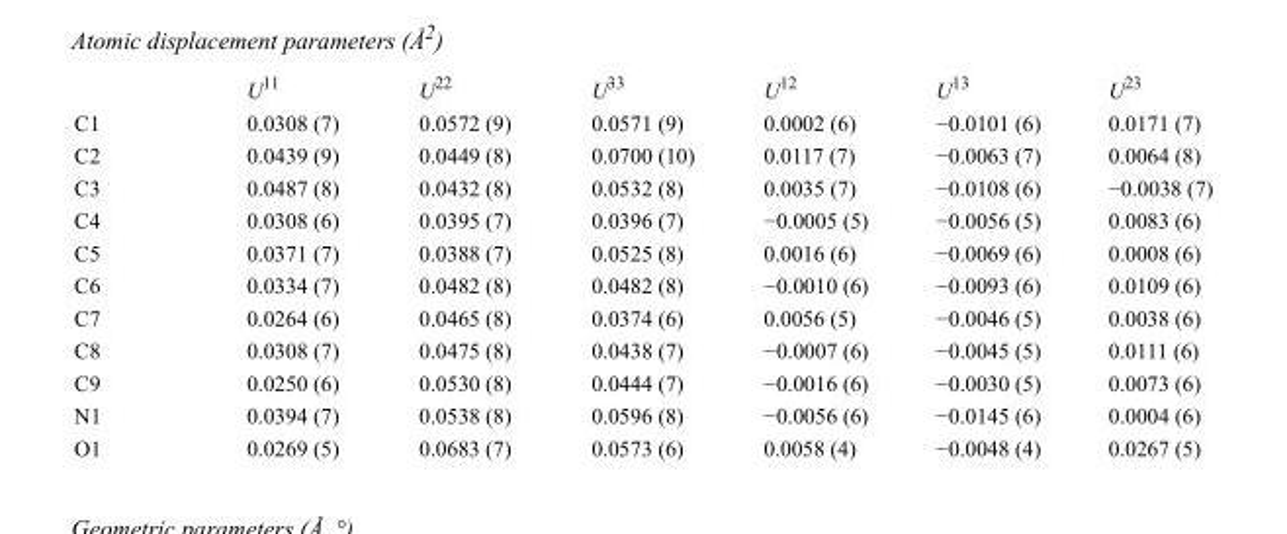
<table><thead><tr><td></td><td>U<sup>11</sup></td><td>U<sup>22</sup></td><td>U<sup>33</sup></td><td>U<sup>12</sup></td><td>U<sup>13</sup></td><td>U<sup>23</sup></td></tr></thead><tbody><tr><td>C1</td><td>0.0308 (7)</td><td>0.0572 (9)</td><td>0.0571 (9)</td><td>0.0002 (6)</td><td>−0.0101 (6)</td><td>0.0171 (7)</td></tr><tr><td>C2</td><td>0.0439 (9)</td><td>0.0449 (8)</td><td>0.0700 (10)</td><td>0.0117 (7)</td><td>−0.0063 (7)</td><td>0.0064 (8)</td></tr><tr><td>C3</td><td>0.0487 (8)</td><td>0.0432 (8)</td><td>0.0532 (8)</td><td>0.0035 (7)</td><td>−0.0108 (6)</td><td>−0.0038 (7)</td></tr><tr><td>C4</td><td>0.0308 (6)</td><td>0.0395 (7)</td><td>0.0396 (7)</td><td>−0.0005 (5)</td><td>−0.0056 (5)</td><td>0.0083 (6)</td></tr><tr><td>C5</td><td>0.0371 (7)</td><td>0.0388 (7)</td><td>0.0525 (8)</td><td>0.0016 (6)</td><td>−0.0069 (6)</td><td>0.0008 (6)</td></tr><tr><td>C6</td><td>0.0334 (7)</td><td>0.0482 (8)</td><td>0.0482 (8)</td><td>−0.0010 (6)</td><td>−0.0093 (6)</td><td>0.0109 (6)</td></tr><tr><td>C7</td><td>0.0264 (6)</td><td>0.0465 (8)</td><td>0.0374 (6)</td><td>0.0056 (5)</td><td>−0.0046 (5)</td><td>0.0038 (6)</td></tr><tr><td>C8</td><td>0.0308 (7)</td><td>0.0475 (8)</td><td>0.0438 (7)</td><td>−0.0007 (6)</td><td>−0.0045 (5)</td><td>0.0111 (6)</td></tr><tr><td>C9</td><td>0.0250 (6)</td><td>0.0530 (8)</td><td>0.0444 (7)</td><td>−0.0016 (6)</td><td>−0.0030 (5)</td><td>0.0073 (6)</td></tr><tr><td>N1</td><td>0.0394 (7)</td><td>0.0538 (8)</td><td>0.0596 (8)</td><td>−0.0056 (6)</td><td>−0.0145 (6)</td><td>0.0004 (6)</td></tr><tr><td>O1</td><td>0.0269 (5)</td><td>0.0683 (7)</td><td>0.0573 (6)</td><td>0.0058 (4)</td><td>−0.0048 (4)</td><td>0.0267 (5)</td></tr></tbody></table>